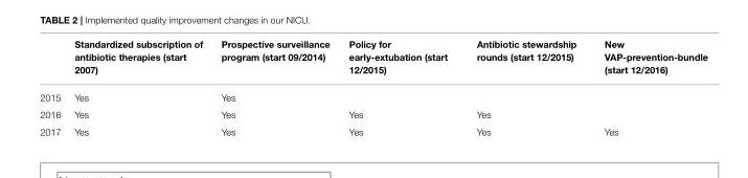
<table><thead><tr><td></td><td>Standardized subscription of antibiotic therapies (start 2007)</td><td>Prospective surveillance program (start 09/2014)</td><td>Policy for early-extubation (start 12/2015)</td><td>Antibiotic stewardship rounds (start 12/2015)</td><td>New VAP-prevention-bundle (start 12/2016)</td></tr></thead><tbody><tr><td>2015</td><td>Yes</td><td>Yes</td><td></td><td></td><td></td></tr><tr><td>2016</td><td>Yes</td><td>Yes</td><td>Yes</td><td>Yes</td><td></td></tr><tr><td>2017</td><td>Yes</td><td>Yes</td><td>Yes</td><td>Yes</td><td>Yes</td></tr></tbody></table>